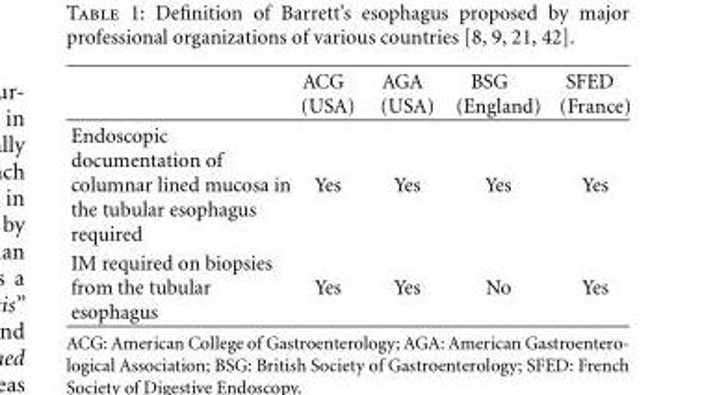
<table><thead><tr><td></td><td>ACG (USA)</td><td>AGA (USA)</td><td>BSG (England)</td><td>SFED (France)</td></tr></thead><tbody><tr><td>Endoscopic documentation of columnar lined mucosa in the tubular esophagus required</td><td>Yes</td><td>Yes</td><td>Yes</td><td>Yes</td></tr><tr><td>IM required on biopsies from the tubular esophagus</td><td>Yes</td><td>Yes</td><td>No</td><td>Yes</td></tr></tbody></table>